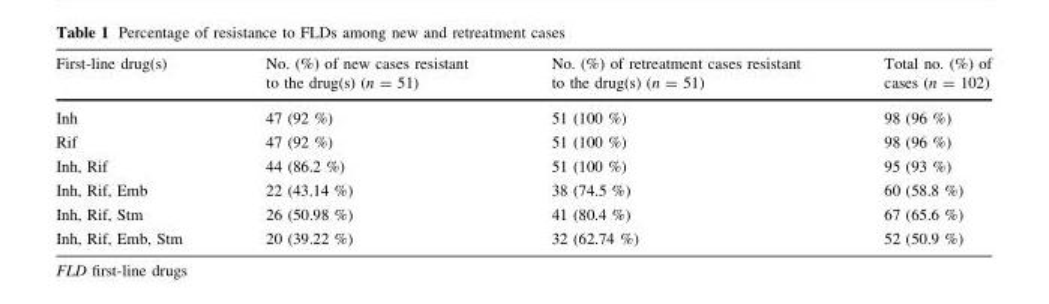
<table><thead><tr><td>First-line drug(s)</td><td>No. (%) of new cases resistant to the drug(s) (n = 51)</td><td>No. (%) of retreatment cases resistant to the drug(s) (n = 51)</td><td>Total no. (%) of cases (n = 102)</td></tr></thead><tbody><tr><td>Inh</td><td>47 (92 %)</td><td>51 (100 %)</td><td>98 (96 %)</td></tr><tr><td>Rif</td><td>47 (92 %)</td><td>51 (100 %)</td><td>98 (96 %)</td></tr><tr><td>Inh, Rif</td><td>44 (86.2 %)</td><td>51 (100 %)</td><td>95 (93 %)</td></tr><tr><td>Inh, Rif, Emb</td><td>22 (43.14 %)</td><td>38 (74.5 %)</td><td>60 (58.8 %)</td></tr><tr><td>Inh, Rif, Stm</td><td>26 (50.98 %)</td><td>41 (80.4 %)</td><td>67 (65.6 %)</td></tr><tr><td>Inh, Rif, Emb, Stm</td><td>20 (39.22 %)</td><td>32 (62.74 %)</td><td>52 (50.9 %)</td></tr></tbody></table>